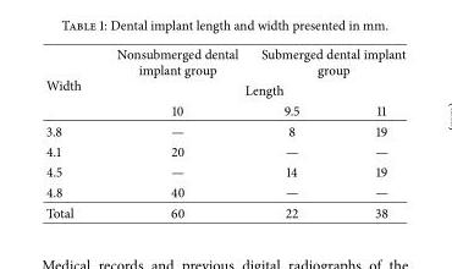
<table><thead><tr><td rowspan="3">Width</td><td>Nonsubmerged dental implant group</td><td colspan="2">Submerged dental implant group</td></tr><tr><td colspan="3">Length</td></tr><tr><td>10</td><td>9.5</td><td>11</td></tr></thead><tbody><tr><td>3.8</td><td>—</td><td>8</td><td>19</td></tr><tr><td>4.1</td><td>20</td><td>—</td><td>—</td></tr><tr><td>4.5</td><td>—</td><td>14</td><td>19</td></tr><tr><td>4.8</td><td>40</td><td>—</td><td>—</td></tr><tr><td>Total</td><td>60</td><td>22</td><td>38</td></tr></tbody></table>